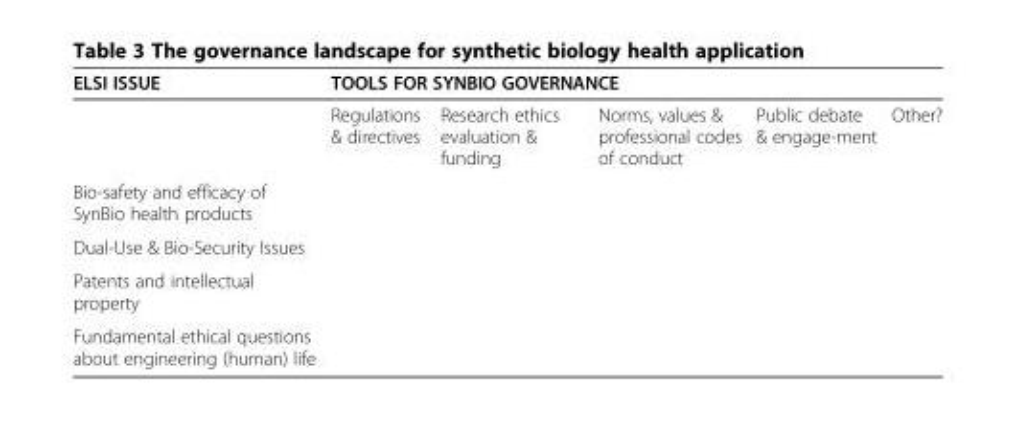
<table><thead><tr><td rowspan="2">ELSI ISSUE</td><td colspan="5">TOOLS FOR SYNBIO GOVERNANCE</td></tr><tr><td>Regulations &amp; directives</td><td>Research ethics evaluation &amp; funding</td><td>Norms, values &amp; professional codes of conduct</td><td>Public debate &amp; engage-ment</td><td>Other?</td></tr></thead><tbody><tr><td colspan="6">Bio-safety and efficacy of SynBio health products</td></tr><tr><td colspan="6">Dual-Use &amp; Bio-Security Issues</td></tr><tr><td colspan="6">Patents and intellectual property</td></tr><tr><td>Fundamental ethical questions about engineering (human) life</td><td></td><td></td><td></td><td></td><td></td></tr></tbody></table>